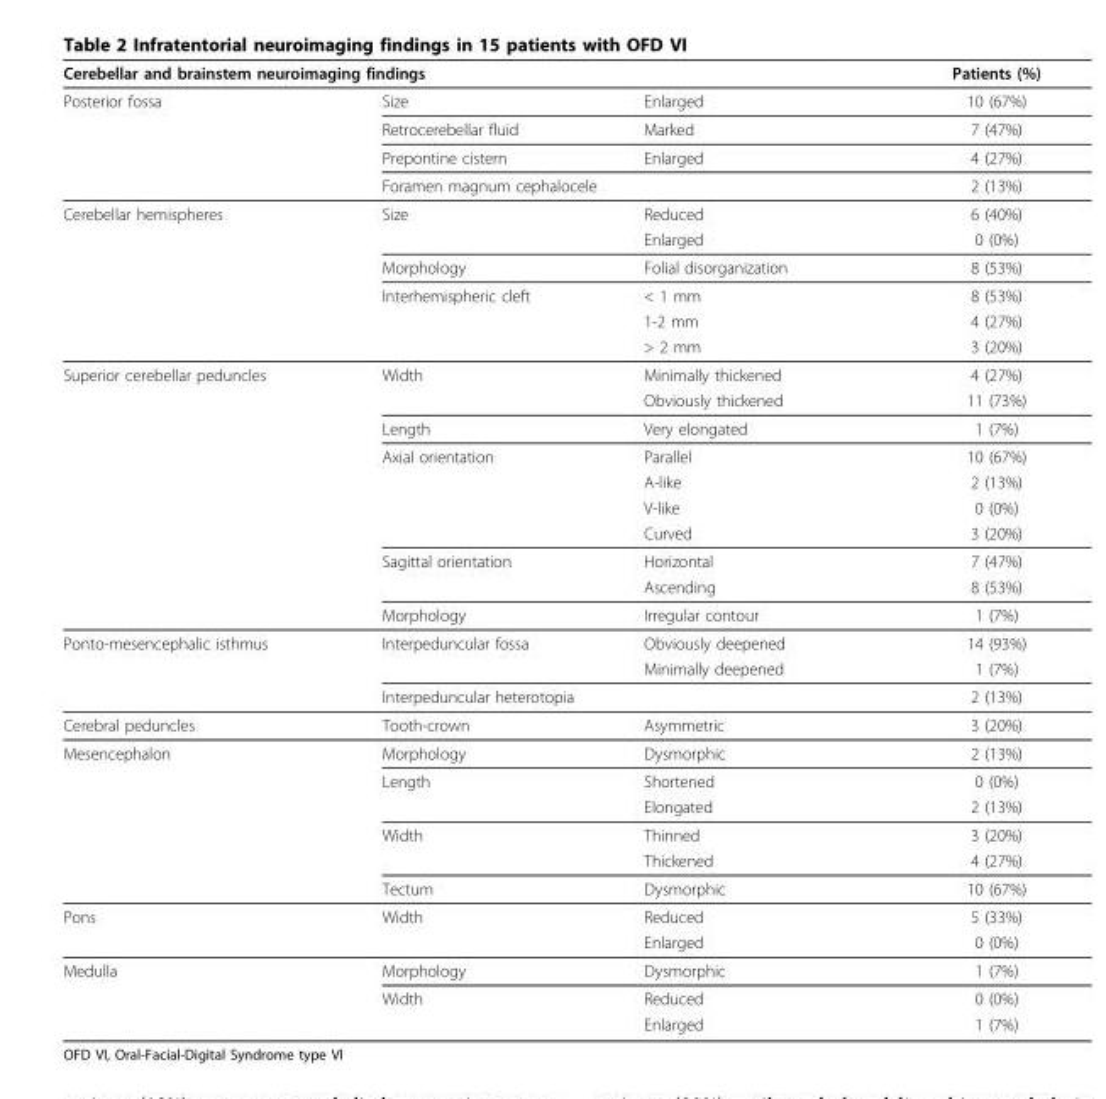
<table><thead><tr><td colspan="3">Cerebellar and brainstem neuroimaging findings</td><td rowspan="2">Patients (%) 10 (67%)</td></tr><tr><td>Posterior fossa</td><td>Size</td><td>Enlarged</td></tr></thead><tbody><tr><td></td><td>Retrocerebellar fluid</td><td>Marked</td><td>7 (47%)</td></tr><tr><td></td><td>Prepontine cistern</td><td>Enlarged</td><td>4 (27%)</td></tr><tr><td></td><td colspan="2">Foramen magnum cephalocele</td><td>2 (13%)</td></tr><tr><td rowspan="6">Cerebellar hemispheres</td><td>Size</td><td>Reduced</td><td>6 (40%)</td></tr><tr><td></td><td>Enlarged</td><td>0 (0%)</td></tr><tr><td>Morphology</td><td>Folial disorganization</td><td>8 (53%)</td></tr><tr><td>Interhemispheric cleft</td><td>&lt; 1 mm</td><td>8 (53%)</td></tr><tr><td></td><td>1-2 mm</td><td>4 (27%)</td></tr><tr><td></td><td>&gt; 2 mm</td><td>3 (20%)</td></tr><tr><td rowspan="10">Superior cerebellar peduncles</td><td>Width</td><td>Minimally thickened</td><td>4 (27%)</td></tr><tr><td></td><td>Obviously thickened</td><td>11 (73%)</td></tr><tr><td>Length</td><td>Very elongated</td><td>1 (7%)</td></tr><tr><td>Axial orientation</td><td>Parallel</td><td>10 (67%)</td></tr><tr><td></td><td>A-like</td><td>2 (13%)</td></tr><tr><td></td><td>V-like</td><td>0 (0%)</td></tr><tr><td></td><td>Curved</td><td>3 (20%)</td></tr><tr><td>Sagittal orientation</td><td>Horizontal</td><td>7 (47%)</td></tr><tr><td></td><td>Ascending</td><td>8 (53%)</td></tr><tr><td>Morphology</td><td>Irregular contour</td><td>1 (7%)</td></tr><tr><td rowspan="3">Ponto-mesencephalic isthmus</td><td>Interpeduncular fossa</td><td>Obviously deepened</td><td>14 (93%)</td></tr><tr><td></td><td>Minimally deepened</td><td>1 (7%)</td></tr><tr><td colspan="2">Interpeduncular heterotopia</td><td>2 (13%)</td></tr><tr><td>Cerebral peduncles</td><td>Tooth-crown</td><td>Asymmetric</td><td>3 (20%)</td></tr><tr><td rowspan="6">Mesencephalon</td><td>Morphology</td><td>Dysmorphic</td><td>2 (13%)</td></tr><tr><td>Length</td><td>Shortened</td><td>0 (0%)</td></tr><tr><td></td><td>Elongated</td><td>2 (13%)</td></tr><tr><td>Width</td><td>Thinned</td><td>3 (20%)</td></tr><tr><td></td><td>Thickened</td><td>4 (27%)</td></tr><tr><td>Tectum</td><td>Dysmorphic</td><td>10 (67%)</td></tr><tr><td rowspan="2">Pons</td><td>Width</td><td>Reduced</td><td>5 (33%)</td></tr><tr><td></td><td>Enlarged</td><td>0 (0%)</td></tr><tr><td rowspan="3">Medulla</td><td>Morphology</td><td>Dysmorphic</td><td>1 (7%)</td></tr><tr><td>Width</td><td>Reduced</td><td>0 (0%)</td></tr><tr><td></td><td>Enlarged</td><td>1 (7%)</td></tr></tbody></table>